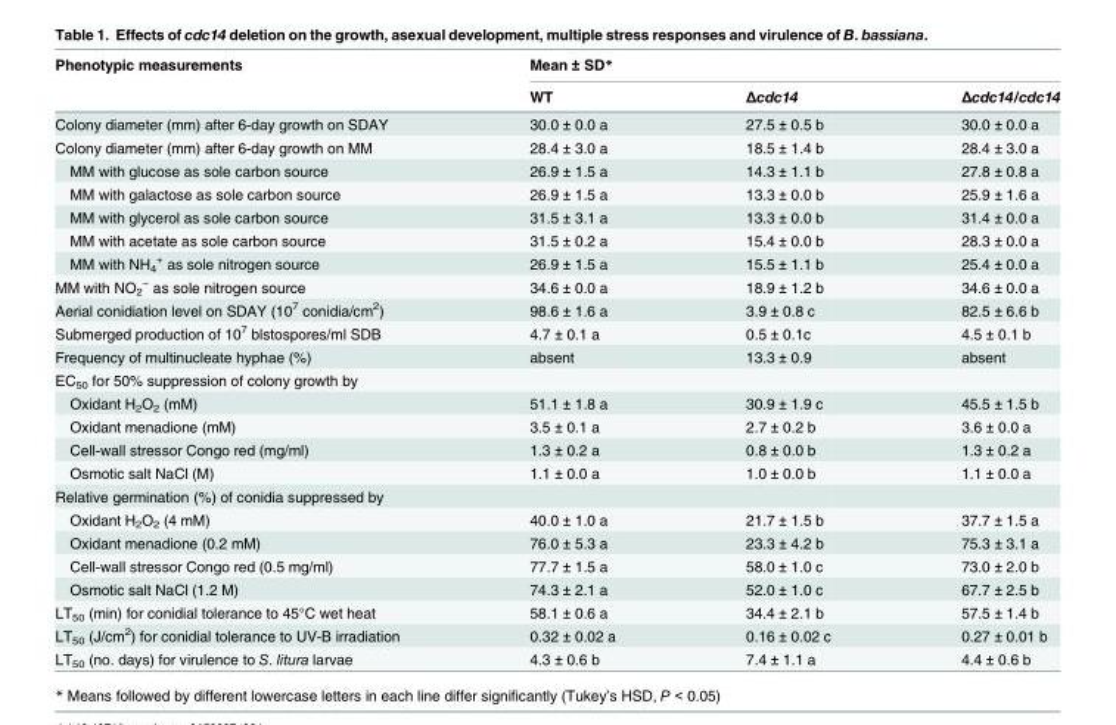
<table><thead><tr><td rowspan="2">Phenotypic measurements</td><td colspan="3">Mean ± SD*</td></tr><tr><td>WT</td><td>Δcdc14</td><td>Δcdc14/cdc14</td></tr></thead><tbody><tr><td>Colony diameter (mm) after 6-day growth on SDAY</td><td>30.0 ± 0.0 a</td><td>27.5 ± 0.5 b</td><td>30.0 ± 0.0 a</td></tr><tr><td>Colony diameter (mm) after 6-day growth on MM</td><td>28.4 ± 3.0 a</td><td>18.5 ± 1.4 b</td><td>28.4 ± 3.0 a</td></tr><tr><td>MM with glucose as sole carbon source</td><td>26.9 ± 1.5 a</td><td>14.3 ± 1.1 b</td><td>27.8 ± 0.8 a</td></tr><tr><td>MM with galactose as sole carbon source</td><td>26.9 ± 1.5 a</td><td>13.3 ± 0.0 b</td><td>25.9 ± 1.6 a</td></tr><tr><td>MM with glycerol as sole carbon source</td><td>31.5 ± 3.1 a</td><td>13.3 ± 0.0 b</td><td>31.4 ± 0.0 a</td></tr><tr><td>MM with acetate as sole carbon source</td><td>31.5 ± 0.2 a</td><td>15.4 ± 0.0 b</td><td>28.3 ± 0.0 a</td></tr><tr><td>MM with NH<sub>4</sub> <sup>+</sup> as sole nitrogen source</td><td>26.9 ± 1.5 a</td><td>15.5 ± 1.1 b</td><td>25.4 ± 0.0 a</td></tr><tr><td>MM with NO<sub>2</sub> <sup>−</sup> as sole nitrogen source</td><td>34.6 ± 0.0 a</td><td>18.9 ± 1.2 b</td><td>34.6 ± 0.0 a</td></tr><tr><td>Aerial conidiation level on SDAY (10<sup>7</sup> conidia/cm<sup>2</sup>)</td><td>98.6 ± 1.6 a</td><td>3.9 ± 0.8 c</td><td>82.5 ± 6.6 b</td></tr><tr><td>Submerged production of 10<sup>7</sup> blstospores/ml SDB</td><td>4.7 ± 0.1 a</td><td>0.5 ± 0.1c</td><td>4.5 ± 0.1 b</td></tr><tr><td>Frequency of multinucleate hyphae (%)</td><td>absent</td><td>13.3 ± 0.9</td><td>absent</td></tr><tr><td colspan="4">EC<sub>50</sub> for 50% suppression of colony growth by</td></tr><tr><td>Oxidant H<sub>2</sub>O<sub>2</sub> (mM)</td><td>51.1 ± 1.8 a</td><td>30.9 ± 1.9 c</td><td>45.5 ± 1.5 b</td></tr><tr><td>Oxidant menadione (mM)</td><td>3.5 ± 0.1 a</td><td>2.7 ± 0.2 b</td><td>3.6 ± 0.0 a</td></tr><tr><td>Cell-wall stressor Congo red (mg/ml)</td><td>1.3 ± 0.2 a</td><td>0.8 ± 0.0 b</td><td>1.3 ± 0.2 a</td></tr><tr><td>Osmotic salt NaCl (M)</td><td>1.1 ± 0.0 a</td><td>1.0 ± 0.0 b</td><td>1.1 ± 0.0 a</td></tr><tr><td colspan="4">Relative germination (%) of conidia suppressed by</td></tr><tr><td>Oxidant H<sub>2</sub>O<sub>2</sub> (4 mM)</td><td>40.0 ± 1.0 a</td><td>21.7 ± 1.5 b</td><td>37.7 ± 1.5 a</td></tr><tr><td>Oxidant menadione (0.2 mM)</td><td>76.0 ± 5.3 a</td><td>23.3 ± 4.2 b</td><td>75.3 ± 3.1 a</td></tr><tr><td>Cell-wall stressor Congo red (0.5 mg/ml)</td><td>77.7 ± 1.5 a</td><td>58.0 ± 1.0 c</td><td>73.0 ± 2.0 b</td></tr><tr><td>Osmotic salt NaCl (1.2 M)</td><td>74.3 ± 2.1 a</td><td>52.0 ± 1.0 c</td><td>67.7 ± 2.5 b</td></tr><tr><td>LT<sub>50</sub> (min) for conidial tolerance to 45°C wet heat</td><td>58.1 ± 0.6 a</td><td>34.4 ± 2.1 b</td><td>57.5 ± 1.4 b</td></tr><tr><td>LT<sub>50</sub> (J/cm<sup>2</sup>) for conidial tolerance to UV-B irradiation</td><td>0.32 ± 0.02 a</td><td>0.16 ± 0.02 c</td><td>0.27 ± 0.01 b</td></tr><tr><td>LT<sub>50</sub> (no. days) for virulence to S. litura larvae</td><td>4.3 ± 0.6 b</td><td>7.4 ± 1.1 a</td><td>4.4 ± 0.6 b</td></tr></tbody></table>